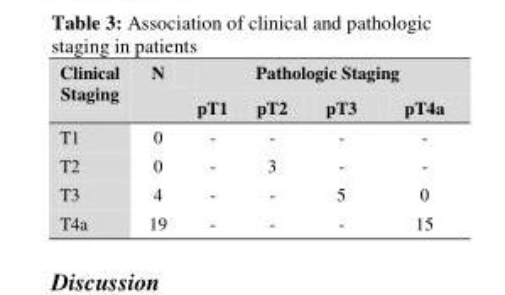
<table><thead><tr><td rowspan="2">Clinical Staging</td><td rowspan="2">N</td><td colspan="4">Pathologic Staging</td></tr><tr><td>pT1</td><td>pT2</td><td>pT3</td><td>pT4a</td></tr></thead><tbody><tr><td>T1</td><td>0</td><td>-</td><td>-</td><td>-</td><td>-</td></tr><tr><td>T2</td><td>0</td><td>-</td><td>3</td><td>-</td><td>-</td></tr><tr><td>T3</td><td>4</td><td>-</td><td>-</td><td>5</td><td>0</td></tr><tr><td>T4a</td><td>19</td><td>-</td><td>-</td><td>-</td><td>15</td></tr></tbody></table>